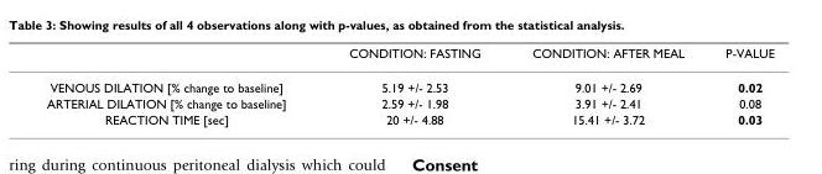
<table><thead><tr><td></td><td>CONDITION: FASTING</td><td>CONDITION: AFTER MEAL</td><td>P-VALUE</td></tr></thead><tbody><tr><td>VENOUS DILATION [% change to baseline]</td><td>5.19 +/- 2.53</td><td>9.01 +/- 2.69</td><td>0.02</td></tr><tr><td>ARTERIAL DILATION [% change to baseline]</td><td>2.59 +/- 1.98</td><td>3.91 +/- 2.41</td><td>0.08</td></tr><tr><td>REACTION TIME [sec]</td><td>20 +/- 4.88</td><td>15.41 +/- 3.72</td><td>0.03</td></tr></tbody></table>